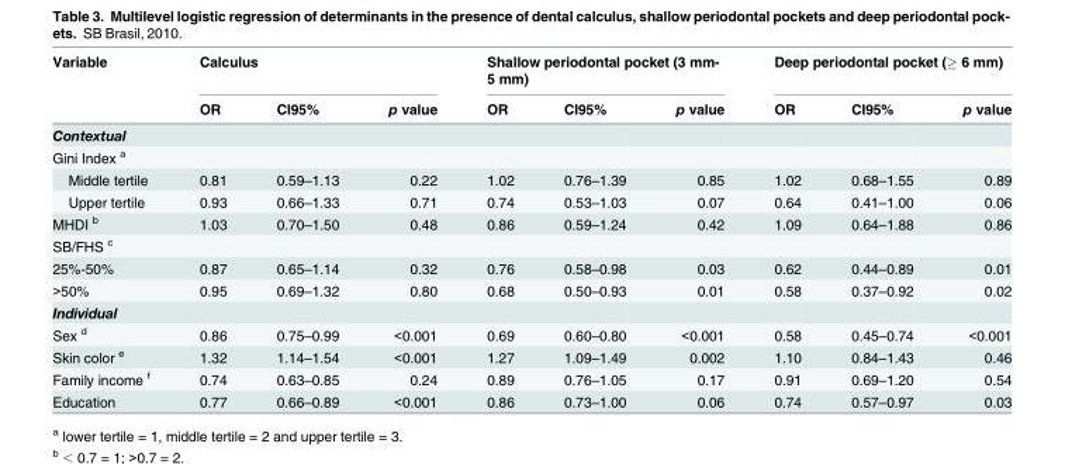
<table><thead><tr><td rowspan="2">Variable</td><td colspan="3">Calculus</td><td colspan="3">Shallow periodontal pocket (3 mm- 5 mm)</td><td colspan="3">Deep periodontal pocket (≥ 6 mm)</td></tr><tr><td>OR</td><td>CI95%</td><td>p value</td><td>OR</td><td>CI95%</td><td>p value</td><td>OR</td><td>CI95%</td><td>p value</td></tr></thead><tbody><tr><td colspan="10">Contextual</td></tr><tr><td colspan="10">Gini Index <sup>a</sup></td></tr><tr><td>Middle tertile</td><td>0.81</td><td>0.59–1.13</td><td>0.22</td><td>1.02</td><td>0.76–1.39</td><td>0.85</td><td>1.02</td><td>0.68–1.55</td><td>0.89</td></tr><tr><td>Upper tertile</td><td>0.93</td><td>0.66–1.33</td><td>0.71</td><td>0.74</td><td>0.53–1.03</td><td>0.07</td><td>0.64</td><td>0.41–1.00</td><td>0.06</td></tr><tr><td>MHDI <sup>b</sup></td><td>1.03</td><td>0.70–1.50</td><td>0.48</td><td>0.86</td><td>0.59–1.24</td><td>0.42</td><td>1.09</td><td>0.64–1.88</td><td>0.86</td></tr><tr><td colspan="10">SB/FHS <sup>c</sup></td></tr><tr><td>25%-50%</td><td>0.87</td><td>0.65–1.14</td><td>0.32</td><td>0.76</td><td>0.58–0.98</td><td>0.03</td><td>0.62</td><td>0.44–0.89</td><td>0.01</td></tr><tr><td>&gt;50%</td><td>0.95</td><td>0.69–1.32</td><td>0.80</td><td>0.68</td><td>0.50–0.93</td><td>0.01</td><td>0.58</td><td>0.37–0.92</td><td>0.02</td></tr><tr><td colspan="10">Individual</td></tr><tr><td>Sex <sup>d</sup></td><td>0.86</td><td>0.75–0.99</td><td>&lt;0.001</td><td>0.69</td><td>0.60–0.80</td><td>&lt;0.001</td><td>0.58</td><td>0.45–0.74</td><td>&lt;0.001</td></tr><tr><td>Skin color <sup>e</sup></td><td>1.32</td><td>1.14–1.54</td><td>&lt;0.001</td><td>1.27</td><td>1.09–1.49</td><td>0.002</td><td>1.10</td><td>0.84–1.43</td><td>0.46</td></tr><tr><td>Family income <sup>f</sup></td><td>0.74</td><td>0.63–0.85</td><td>0.24</td><td>0.89</td><td>0.76–1.05</td><td>0.17</td><td>0.91</td><td>0.69–1.20</td><td>0.54</td></tr><tr><td>Education</td><td>0.77</td><td>0.66–0.89</td><td>&lt;0.001</td><td>0.86</td><td>0.73–1.00</td><td>0.06</td><td>0.74</td><td>0.57–0.97</td><td>0.03</td></tr></tbody></table>